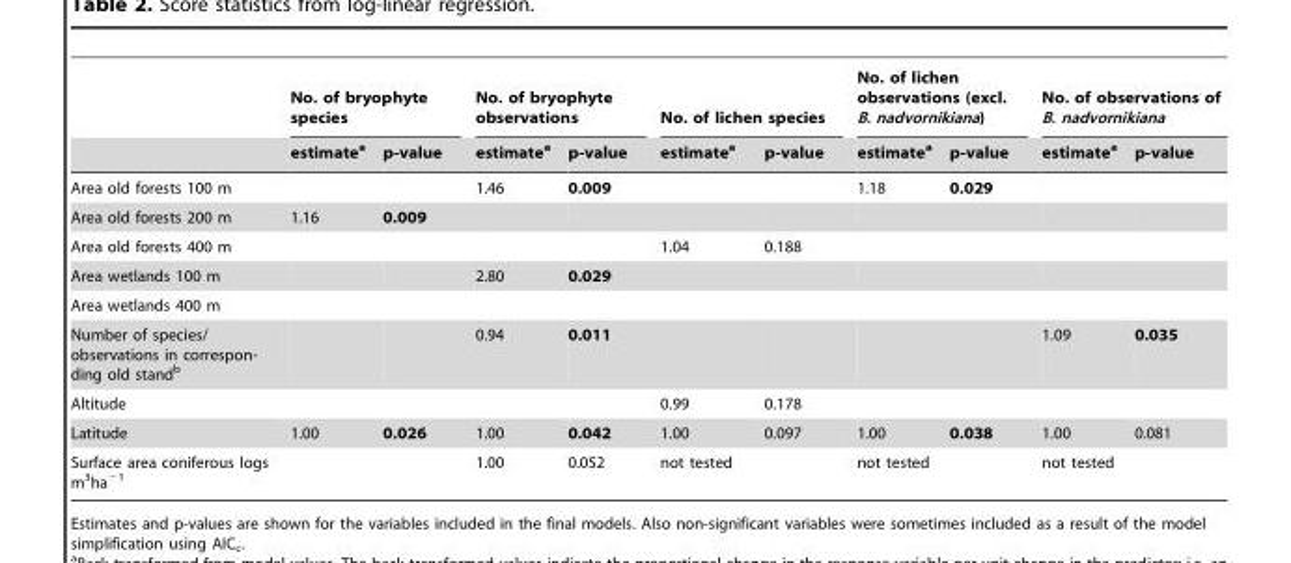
<table><thead><tr><td rowspan="2"></td><td colspan="2">No. of bryophyte species</td><td colspan="2">No. of bryophyte observations</td><td colspan="2">No. of lichen species</td><td colspan="2">No. of lichen observations (excl. B. nadvornikiana)</td><td colspan="2">No. of observations of B. nadvornikiana</td></tr><tr><td>estimate<sup>a</sup></td><td>p-value</td><td>estimate<sup>a</sup></td><td>p-value</td><td>estimate<sup>a</sup></td><td>p-value</td><td>estimate<sup>a</sup></td><td>p-value</td><td>estimate<sup>a</sup></td><td>p-value</td></tr></thead><tbody><tr><td>Area old forests 100 m</td><td></td><td></td><td>1.46</td><td>0.009</td><td></td><td></td><td>1.18</td><td>0.029</td><td></td><td></td></tr><tr><td>Area old forests 200 m</td><td>1.16</td><td>0.009</td><td></td><td></td><td></td><td></td><td></td><td></td><td></td><td></td></tr><tr><td>Area old forests 400 m</td><td></td><td></td><td></td><td></td><td>1.04</td><td>0.188</td><td></td><td></td><td></td><td></td></tr><tr><td>Area wetlands 100 m</td><td></td><td></td><td>2.80</td><td>0.029</td><td></td><td></td><td></td><td></td><td></td><td></td></tr><tr><td colspan="11">Area wetlands 400 m</td></tr><tr><td>Number of species/ observations in correspon- ding old standb</td><td></td><td></td><td>0.94</td><td>0.011</td><td></td><td></td><td></td><td></td><td>1.09</td><td>0.035</td></tr><tr><td>Altitude</td><td></td><td></td><td></td><td></td><td>0.99</td><td>0.178</td><td></td><td></td><td></td><td></td></tr><tr><td>Latitude</td><td>1.00</td><td>0.026</td><td>1.00</td><td>0.042</td><td>1.00</td><td>0.097</td><td>1.00</td><td>0.038</td><td>1.00</td><td>0.081</td></tr><tr><td>Surface area coniferous logs m<sup>3</sup>ha<sup>−1</sup></td><td></td><td></td><td>1.00</td><td>0.052</td><td>not tested</td><td></td><td>not tested</td><td></td><td>not tested</td><td></td></tr></tbody></table>